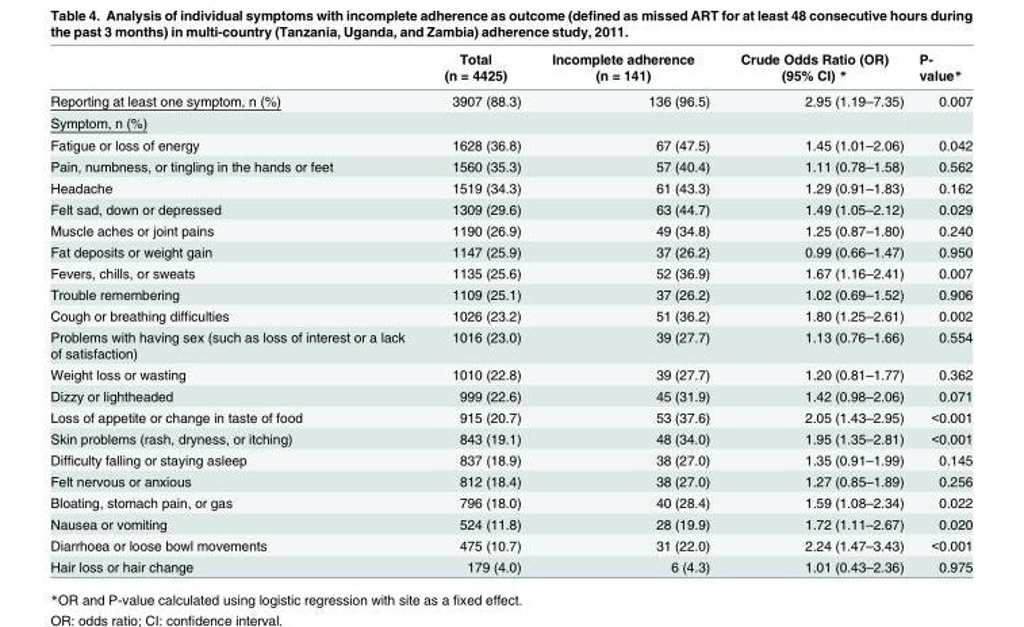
<table><thead><tr><td></td><td>Total (n = 4425)</td><td>Incomplete adherence (n = 141)</td><td>Crude Odds Ratio (OR) (95% CI) *</td><td>P- value*</td></tr></thead><tbody><tr><td>Reporting at least one symptom, n (%)</td><td>3907 (88.3)</td><td>136 (96.5)</td><td>2.95 (1.19–7.35)</td><td>0.007</td></tr><tr><td colspan="5">Symptom, n (%)</td></tr><tr><td>Fatigue or loss of energy</td><td>1628 (36.8)</td><td>67 (47.5)</td><td>1.45 (1.01–2.06)</td><td>0.042</td></tr><tr><td>Pain, numbness, or tingling in the hands or feet</td><td>1560 (35.3)</td><td>57 (40.4)</td><td>1.11 (0.78–1.58)</td><td>0.562</td></tr><tr><td>Headache</td><td>1519 (34.3)</td><td>61 (43.3)</td><td>1.29 (0.91–1.83)</td><td>0.162</td></tr><tr><td>Felt sad, down or depressed</td><td>1309 (29.6)</td><td>63 (44.7)</td><td>1.49 (1.05–2.12)</td><td>0.029</td></tr><tr><td>Muscle aches or joint pains</td><td>1190 (26.9)</td><td>49 (34.8)</td><td>1.25 (0.87–1.80)</td><td>0.240</td></tr><tr><td>Fat deposits or weight gain</td><td>1147 (25.9)</td><td>37 (26.2)</td><td>0.99 (0.66–1.47)</td><td>0.950</td></tr><tr><td>Fevers, chills, or sweats</td><td>1135 (25.6)</td><td>52 (36.9)</td><td>1.67 (1.16–2.41)</td><td>0.007</td></tr><tr><td>Trouble remembering</td><td>1109 (25.1)</td><td>37 (26.2)</td><td>1.02 (0.69–1.52)</td><td>0.906</td></tr><tr><td>Cough or breathing difficulties</td><td>1026 (23.2)</td><td>51 (36.2)</td><td>1.80 (1.25–2.61)</td><td>0.002</td></tr><tr><td>Problems with having sex (such as loss of interest or a lack of satisfaction)</td><td>1016 (23.0)</td><td>39 (27.7)</td><td>1.13 (0.76–1.66)</td><td>0.554</td></tr><tr><td>Weight loss or wasting</td><td>1010 (22.8)</td><td>39 (27.7)</td><td>1.20 (0.81–1.77)</td><td>0.362</td></tr><tr><td>Dizzy or lightheaded</td><td>999 (22.6)</td><td>45 (31.9)</td><td>1.42 (0.98–2.06)</td><td>0.071</td></tr><tr><td>Loss of appetite or change in taste of food</td><td>915 (20.7)</td><td>53 (37.6)</td><td>2.05 (1.43–2.95)</td><td>&lt;0.001</td></tr><tr><td>Skin problems (rash, dryness, or itching)</td><td>843 (19.1)</td><td>48 (34.0)</td><td>1.95 (1.35–2.81)</td><td>&lt;0.001</td></tr><tr><td>Difficulty falling or staying asleep</td><td>837 (18.9)</td><td>38 (27.0)</td><td>1.35 (0.91–1.99)</td><td>0.145</td></tr><tr><td>Felt nervous or anxious</td><td>812 (18.4)</td><td>38 (27.0)</td><td>1.27 (0.85–1.89)</td><td>0.256</td></tr><tr><td>Bloating, stomach pain, or gas</td><td>796 (18.0)</td><td>40 (28.4)</td><td>1.59 (1.08–2.34)</td><td>0.022</td></tr><tr><td>Nausea or vomiting</td><td>524 (11.8)</td><td>28 (19.9)</td><td>1.72 (1.11–2.67)</td><td>0.020</td></tr><tr><td>Diarrhoea or loose bowl movements</td><td>475 (10.7)</td><td>31 (22.0)</td><td>2.24 (1.47–3.43)</td><td>&lt;0.001</td></tr><tr><td>Hair loss or hair change</td><td>179 (4.0)</td><td>6 (4.3)</td><td>1.01 (0.43–2.36)</td><td>0.975</td></tr></tbody></table>